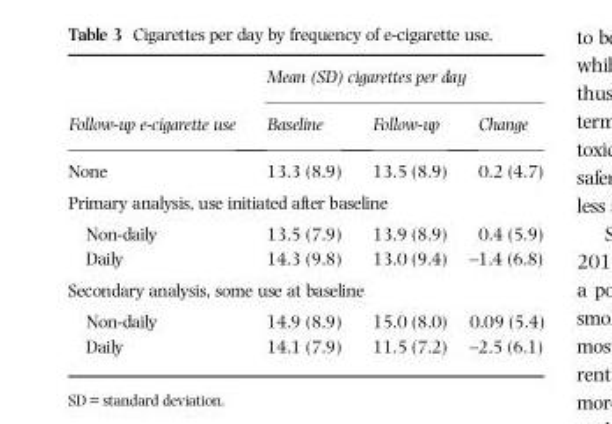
<table><thead><tr><td rowspan="2">Follow-up e-cigarette use</td><td colspan="3">Mean (SD) cigarettes per day</td></tr><tr><td>Baseline</td><td>Follow-up</td><td>Change</td></tr></thead><tbody><tr><td>None</td><td>13.3 (8.9)</td><td>13.5 (8.9)</td><td>0.2 (4.7)</td></tr><tr><td colspan="4">Primary analysis, use initiated after baseline</td></tr><tr><td>Non-daily</td><td>13.5 (7.9)</td><td>13.9 (8.9)</td><td>0.4 (5.9)</td></tr><tr><td>Daily</td><td>14.3 (9.8)</td><td>13.0 (9.4)</td><td>–1.4 (6.8)</td></tr><tr><td colspan="4">Secondary analysis, some use at baseline</td></tr><tr><td>Non-daily</td><td>14.9 (8.9)</td><td>15.0 (8.0)</td><td>0.09 (5.4)</td></tr><tr><td>Daily</td><td>14.1 (7.9)</td><td>11.5 (7.2)</td><td>–2.5 (6.1)</td></tr></tbody></table>